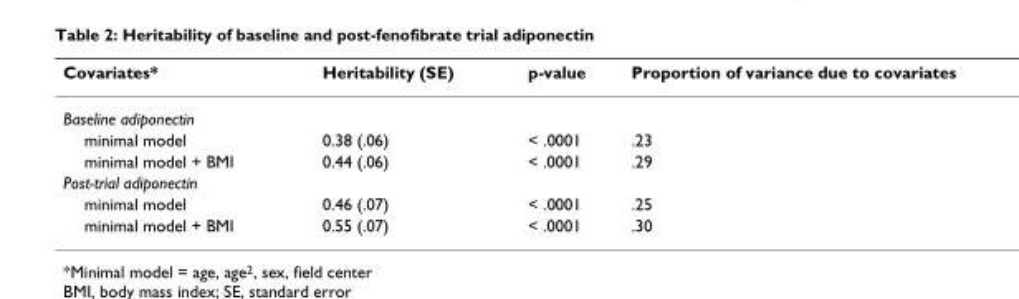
<table><thead><tr><td>Covariates*</td><td>Heritability (SE)</td><td>p-value</td><td>Proportion of variance due to covariates</td></tr></thead><tbody><tr><td colspan="4">Baseline adiponectin</td></tr><tr><td>minimal model</td><td>0.38 (.06)</td><td>&lt; .0001</td><td>.23</td></tr><tr><td>minimal model + BMI</td><td>0.44 (.06)</td><td>&lt; .0001</td><td>.29</td></tr><tr><td colspan="4">Post-trial adiponectin</td></tr><tr><td>minimal model</td><td>0.46 (.07)</td><td>&lt; .0001</td><td>.25</td></tr><tr><td>minimal model + BMI</td><td>0.55 (.07)</td><td>&lt; .0001</td><td>.30</td></tr></tbody></table>